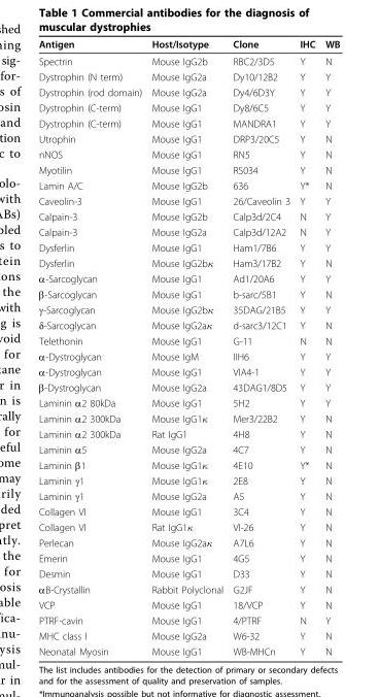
<table><thead><tr><td>Antigen</td><td>Host/Isotype</td><td>Clone</td><td>IHC</td><td>WB</td></tr></thead><tbody><tr><td>Spectrin</td><td>Mouse IgG2b</td><td>RBC2/3D5</td><td>Y</td><td>N</td></tr><tr><td>Dystrophin (N term)</td><td>Mouse IgG2a</td><td>Dy10/12B2</td><td>Y</td><td>Y</td></tr><tr><td>Dystrophin (rod domain)</td><td>Mouse IgG2a</td><td>Dy4/6D3Y</td><td>Y</td><td>Y</td></tr><tr><td>Dystrophin (C-term)</td><td>Mouse IgG1</td><td>Dy8/6C5</td><td>Y</td><td>Y</td></tr><tr><td>Dystrophin (C-term)</td><td>Mouse IgG1</td><td>MANDRA1</td><td>Y</td><td>Y</td></tr><tr><td>Utrophin</td><td>Mouse IgG1</td><td>DRP3/20C5</td><td>Y</td><td>N</td></tr><tr><td>nNOS</td><td>Mouse IgG1</td><td>RN5</td><td>Y</td><td>N</td></tr><tr><td>Myotilin</td><td>Mouse IgG1</td><td>RS034</td><td>Y</td><td>N</td></tr><tr><td>Lamin A/C</td><td>Mouse IgG2b</td><td>636</td><td>Y*</td><td>N</td></tr><tr><td>Caveolin-3</td><td>Mouse IgG1</td><td>26/Caveolin 3</td><td>Y</td><td>Y</td></tr><tr><td>Calpain-3</td><td>Mouse IgG2b</td><td>Calp3d/2C4</td><td>N</td><td>Y</td></tr><tr><td>Calpain-3</td><td>Mouse IgG2a</td><td>Calp3d/12A2</td><td>N</td><td>Y</td></tr><tr><td>Dysferlin</td><td>Mouse IgG1</td><td>Ham1/7B6</td><td>Y</td><td>Y</td></tr><tr><td>Dysferlin</td><td>Mouse IgG2bκ</td><td>Ham3/17B2</td><td>Y</td><td>N</td></tr><tr><td>α-Sarcoglycan</td><td>Mouse IgG1</td><td>Ad1/20A6</td><td>Y</td><td>Y</td></tr><tr><td>β-Sarcoglycan</td><td>Mouse IgG1</td><td>b-sarc/5B1</td><td>Y</td><td>N</td></tr><tr><td>γ-Sarcoglycan</td><td>Mouse IgG2bκ</td><td>35DAG/21B5</td><td>Y</td><td>Y</td></tr><tr><td>δ-Sarcoglycan</td><td>Mouse IgG2aκ</td><td>d-sarc3/12C1</td><td>Y</td><td>N</td></tr><tr><td>Telethonin</td><td>Mouse IgG1</td><td>G-11</td><td>N</td><td>N</td></tr><tr><td>α-Dystroglycan</td><td>Mouse IgM</td><td>IIH6</td><td>Y</td><td>Y</td></tr><tr><td>α-Dystroglycan</td><td>Mouse IgG1</td><td>VIA4-1</td><td>Y</td><td>Y</td></tr><tr><td>β-Dystroglycan</td><td>Mouse IgG2a</td><td>43DAG1/8D5</td><td>Y</td><td>Y</td></tr><tr><td>Laminin α2 80kDa</td><td>Mouse IgG1</td><td>5H2</td><td>Y</td><td>Y</td></tr><tr><td>Laminin α2 300kDa</td><td>Mouse IgG1κ</td><td>Mer3/22B2</td><td>Y</td><td>N</td></tr><tr><td>Laminin α2 300kDa</td><td>Rat IgG1</td><td>4H8</td><td>Y</td><td>N</td></tr><tr><td>Laminin α5</td><td>Mouse IgG2a</td><td>4C7</td><td>Y</td><td>N</td></tr><tr><td>Laminin β1</td><td>Mouse IgG1κ</td><td>4E10</td><td>Y*</td><td>N</td></tr><tr><td>Laminin γ1</td><td>Mouse IgG1κ</td><td>2E8</td><td>Y</td><td>N</td></tr><tr><td>Laminin γ1</td><td>Mouse IgG2a</td><td>A5</td><td>Y</td><td>N</td></tr><tr><td>Collagen VI</td><td>Mouse IgG1</td><td>3C4</td><td>Y</td><td>N</td></tr><tr><td>Collagen VI</td><td>Rat IgG1κ</td><td>VI-26</td><td>Y</td><td>N</td></tr><tr><td>Perlecan</td><td>Mouse IgG2aκ</td><td>A7L6</td><td>Y</td><td>N</td></tr><tr><td>Emerin</td><td>Mouse IgG1</td><td>4G5</td><td>Y</td><td>N</td></tr><tr><td>Desmin</td><td>Mouse IgG1</td><td>D33</td><td>Y</td><td>N</td></tr><tr><td>αB-Crystallin</td><td>Rabbit Polyclonal</td><td>G2JF</td><td>Y</td><td>N</td></tr><tr><td>VCP</td><td>Mouse IgG1</td><td>18/VCP</td><td>Y</td><td>N</td></tr><tr><td>PTRF-cavin</td><td>Mouse IgG1</td><td>4/PTRF</td><td>N</td><td>Y</td></tr><tr><td>MHC class I</td><td>Mouse IgG2a</td><td>W6-32</td><td>Y</td><td>N</td></tr><tr><td>Neonatal Myosin</td><td>Mouse IgG1</td><td>WB-MHCn</td><td>Y</td><td>N</td></tr></tbody></table>